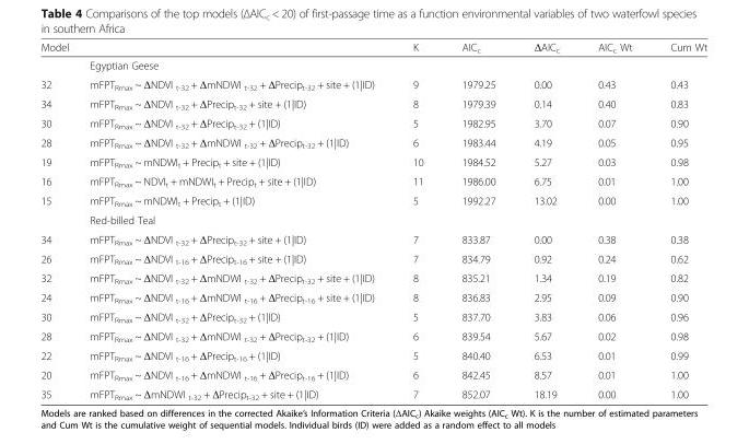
<table><thead><tr><td colspan="2">Model</td><td>K</td><td>AIC<sub>c</sub></td><td>ΔAIC<sub>c</sub></td><td>AIC<sub>c</sub> Wt</td><td>Cum Wt</td></tr><tr><td rowspan="2">32</td><td colspan="6">Egyptian Geese</td></tr><tr><td>mFPT<sub>Rmax</sub> ~ ΔNDVI <sub>t-32</sub> + ΔmNDWI <sub>t-32</sub> + ΔPrecip<sub>t-32</sub> + site + (1|ID)</td><td>9</td><td>1979.25</td><td>0.00</td><td>0.43</td><td>0.43</td></tr></thead><tbody><tr><td>34</td><td>mFPT<sub>Rmax</sub> ~ ΔNDVI <sub>t-32</sub> + ΔPrecip<sub>t-32</sub> + site + (1|ID)</td><td>8</td><td>1979.39</td><td>0.14</td><td>0.40</td><td>0.83</td></tr><tr><td>30</td><td>mFPT<sub>Rmax</sub> ~ ΔNDVI <sub>t-32</sub> + ΔPrecip<sub>t-32</sub> + (1|ID)</td><td>5</td><td>1982.95</td><td>3.70</td><td>0.07</td><td>0.90</td></tr><tr><td>28</td><td>mFPT<sub>Rmax</sub> ~ ΔNDVI <sub>t-32</sub> + ΔmNDWI <sub>t-32</sub> + ΔPrecip<sub>t-32</sub> + (1|ID)</td><td>6</td><td>1983.44</td><td>4.19</td><td>0.05</td><td>0.95</td></tr><tr><td>19</td><td>mFPT<sub>Rmax</sub> ~ mNDWI<sub>t</sub> + Precip<sub>t</sub> + site + (1|ID)</td><td>10</td><td>1984.52</td><td>5.27</td><td>0.03</td><td>0.98</td></tr><tr><td>16</td><td>mFPT<sub>Rmax</sub> ~ NDVI<sub>t</sub> + mNDWI<sub>t</sub> + Precip<sub>t</sub> + site + (1|ID)</td><td>11</td><td>1986.00</td><td>6.75</td><td>0.01</td><td>1.00</td></tr><tr><td rowspan="2">15</td><td>mFPT<sub>Rmax</sub> ~ mNDWI<sub>t</sub> + Precip<sub>t</sub> + (1|ID)</td><td>5</td><td>1992.27</td><td>13.02</td><td>0.00</td><td>1.00</td></tr><tr><td colspan="6">Red-billed Teal</td></tr><tr><td>34</td><td>mFPT<sub>Rmax</sub> ~ ΔNDVI <sub>t-32</sub> + ΔPrecip<sub>t-32</sub> + site + (1|ID)</td><td>7</td><td>833.87</td><td>0.00</td><td>0.38</td><td>0.38</td></tr><tr><td>26</td><td>mFPT<sub>Rmax</sub> ~ ΔNDVI <sub>t-16</sub> + ΔPrecip<sub>t-16</sub> + site + (1|ID)</td><td>7</td><td>834.79</td><td>0.92</td><td>0.24</td><td>0.62</td></tr><tr><td>32</td><td>mFPT<sub>Rmax</sub> ~ ΔNDVI <sub>t-32</sub> + ΔmNDWI <sub>t-32</sub> + ΔPrecip<sub>t-32</sub> + site + (1|ID)</td><td>8</td><td>835.21</td><td>1.34</td><td>0.19</td><td>0.82</td></tr><tr><td>24</td><td>mFPT<sub>Rmax</sub> ~ ΔNDVI <sub>t-16</sub> + ΔmNDWI <sub>t-16</sub> + ΔPrecip<sub>t-16</sub> + site + (1|ID)</td><td>8</td><td>836.83</td><td>2.95</td><td>0.09</td><td>0.90</td></tr><tr><td>30</td><td>mFPT<sub>Rmax</sub> ~ ΔNDVI <sub>t-32</sub> + ΔPrecip<sub>t-32</sub> + (1|ID)</td><td>5</td><td>837.70</td><td>3.83</td><td>0.06</td><td>0.96</td></tr><tr><td>28</td><td>mFPT<sub>Rmax</sub> ~ ΔNDVI <sub>t-32</sub> + ΔmNDWI <sub>t-32</sub> + ΔPrecip<sub>t-32</sub> + (1|ID)</td><td>6</td><td>839.54</td><td>5.67</td><td>0.02</td><td>0.98</td></tr><tr><td>22</td><td>mFPT<sub>Rmax</sub> ~ ΔNDVI <sub>t-16</sub> + ΔPrecip<sub>t-16</sub> + (1|ID)</td><td>5</td><td>840.40</td><td>6.53</td><td>0.01</td><td>0.99</td></tr><tr><td>20</td><td>mFPT<sub>Rmax</sub> ~ ΔNDVI <sub>t-16</sub> + ΔmNDWI <sub>t-16</sub> + ΔPrecip<sub>t-16</sub> + (1|ID)</td><td>6</td><td>842.45</td><td>8.57</td><td>0.01</td><td>1.00</td></tr><tr><td>35</td><td>mFPT<sub>Rmax</sub> ~ ΔmNDWI <sub>t-32</sub> + ΔPrecip<sub>t-32</sub> + site + (1|ID)</td><td>7</td><td>852.07</td><td>18.19</td><td>0.00</td><td>1.00</td></tr></tbody></table>